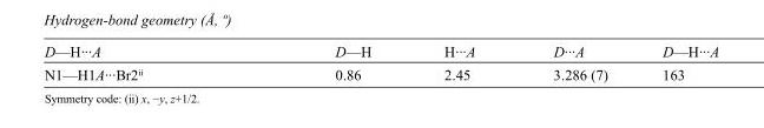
<table><tbody><tr><td>D—H···A</td><td>D—H</td><td>H···A</td><td>D···A</td><td>D—H···A</td></tr><tr><td>N1—H1A···Br2<sup>ii</sup></td><td>0.86</td><td>2.45</td><td>3.286 (7)</td><td>163</td></tr></tbody></table>